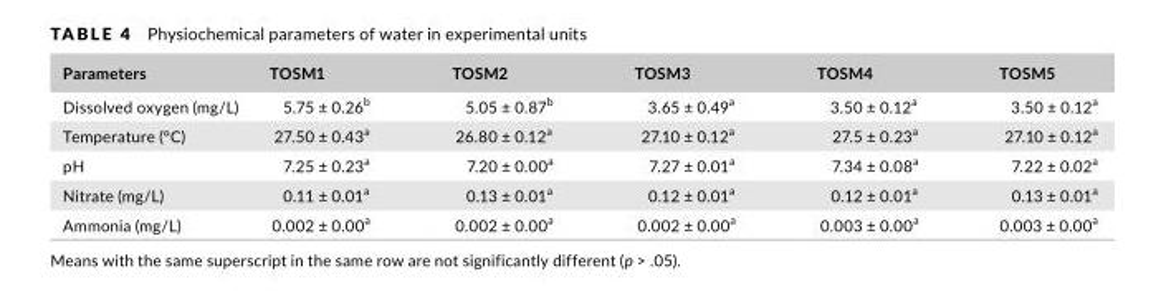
<table><thead><tr><td>Parameters</td><td>TOSM1</td><td>TOSM2</td><td>TOSM3</td><td>TOSM4</td><td>TOSM5</td></tr></thead><tbody><tr><td>Dissolved oxygen (mg/L)</td><td>5.75 ± 0.26<sup>b</sup></td><td>5.05 ± 0.87<sup>b</sup></td><td>3.65 ± 0.49<sup>a</sup></td><td>3.50 ± 0.12<sup>a</sup></td><td>3.50 ± 0.12<sup>a</sup></td></tr><tr><td>Temperature (°C)</td><td>27.50 ± 0.43<sup>a</sup></td><td>26.80 ± 0.12<sup>a</sup></td><td>27.10 ± 0.12<sup>a</sup></td><td>27.5 ± 0.23<sup>a</sup></td><td>27.10 ± 0.12<sup>a</sup></td></tr><tr><td>pH</td><td>7.25 ± 0.23<sup>a</sup></td><td>7.20 ± 0.00<sup>a</sup></td><td>7.27 ± 0.01<sup>a</sup></td><td>7.34 ± 0.08<sup>a</sup></td><td>7.22 ± 0.02<sup>a</sup></td></tr><tr><td>Nitrate (mg/L)</td><td>0.11 ± 0.01<sup>a</sup></td><td>0.13 ± 0.01<sup>a</sup></td><td>0.12 ± 0.01<sup>a</sup></td><td>0.12 ± 0.01<sup>a</sup></td><td>0.13 ± 0.01<sup>a</sup></td></tr><tr><td>Ammonia (mg/L)</td><td>0.002 ± 0.00<sup>a</sup></td><td>0.002 ± 0.00<sup>a</sup></td><td>0.002 ± 0.00<sup>a</sup></td><td>0.003 ± 0.00<sup>a</sup></td><td>0.003 ± 0.00<sup>a</sup></td></tr></tbody></table>